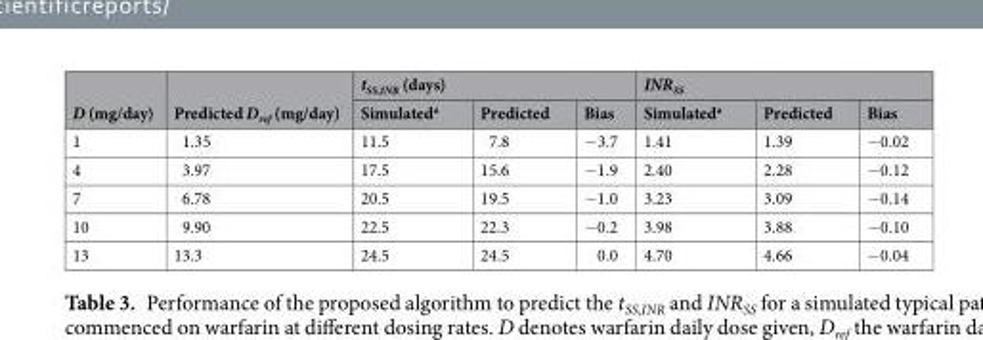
<table><thead><tr><td rowspan="2">D (mg/day)</td><td rowspan="2">Predicted D<sub>ref</sub> (mg/day)</td><td colspan="3">t<sub>SS,INR</sub> (days)</td><td colspan="3">INR<sub>SS</sub></td></tr><tr><td>Simulated<sup>a</sup></td><td>Predicted</td><td>Bias</td><td>Simulated<sup>a</sup></td><td>Predicted</td><td>Bias</td></tr></thead><tbody><tr><td>1</td><td>1.35</td><td>11.5</td><td>7.8</td><td>−3.7</td><td>1.41</td><td>1.39</td><td>−0.02</td></tr><tr><td>4</td><td>3.97</td><td>17.5</td><td>15.6</td><td>−1.9</td><td>2.40</td><td>2.28</td><td>−0.12</td></tr><tr><td>7</td><td>6.78</td><td>20.5</td><td>19.5</td><td>−1.0</td><td>3.23</td><td>3.09</td><td>−0.14</td></tr><tr><td>10</td><td>9.90</td><td>22.5</td><td>22.3</td><td>−0.2</td><td>3.98</td><td>3.88</td><td>−0.10</td></tr><tr><td>13</td><td>13.3</td><td>24.5</td><td>24.5</td><td>0.0</td><td>4.70</td><td>4.66</td><td>−0.04</td></tr></tbody></table>